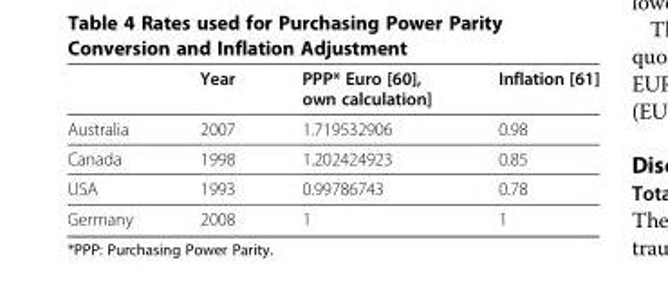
<table><thead><tr><td></td><td>Year</td><td>PPP* Euro [60], own calculation]</td><td>Inflation [61]</td></tr></thead><tbody><tr><td>Australia</td><td>2007</td><td>1.719532906</td><td>0.98</td></tr><tr><td>Canada</td><td>1998</td><td>1.202424923</td><td>0.85</td></tr><tr><td>USA</td><td>1993</td><td>0.99786743</td><td>0.78</td></tr><tr><td>Germany</td><td>2008</td><td>1</td><td>1</td></tr></tbody></table>